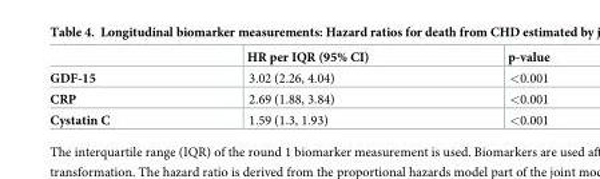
<table><thead><tr><td></td><td>HR per IQR (95% CI)</td><td>p-value</td></tr></thead><tbody><tr><td>GDF-15</td><td>3.02 (2.26, 4.04)</td><td>&lt;0.001</td></tr><tr><td>CRP</td><td>2.69 (1.88, 3.84)</td><td>&lt;0.001</td></tr><tr><td>Cystatin C</td><td>1.59 (1.3, 1.93)</td><td>&lt;0.001</td></tr></tbody></table>